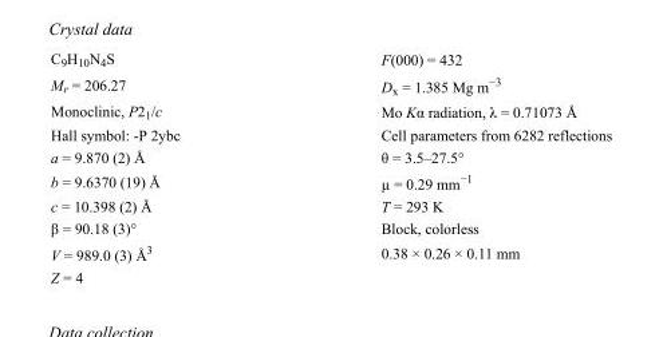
<table><tbody><tr><td>C<sub>9</sub>H<sub>10</sub>N<sub>4</sub>S</td><td>F(000) = 432</td></tr><tr><td>M<sub>r</sub> = 206.27</td><td>D<sub>x</sub> = 1.385 Mg m<sup>−3</sup></td></tr><tr><td>Monoclinic, P2<sub>1</sub>/c</td><td>Mo Kα radiation, λ = 0.71073 Å</td></tr><tr><td>Hall symbol: -P 2ybc</td><td>Cell parameters from 6282 reflections</td></tr><tr><td>a = 9.870 (2) Å</td><td>θ = 3.5–27.5°</td></tr><tr><td>b = 9.6370 (19) Å</td><td>µ = 0.29 mm<sup>−1</sup></td></tr><tr><td>c = 10.398 (2) Å</td><td>T = 293 K</td></tr><tr><td>β = 90.18 (3)°</td><td>Block, colorless</td></tr><tr><td>V = 989.0 (3) Å<sup>3</sup></td><td>0.38 × 0.26 × 0.11 mm</td></tr><tr><td>Z = 4</td><td></td></tr></tbody></table>